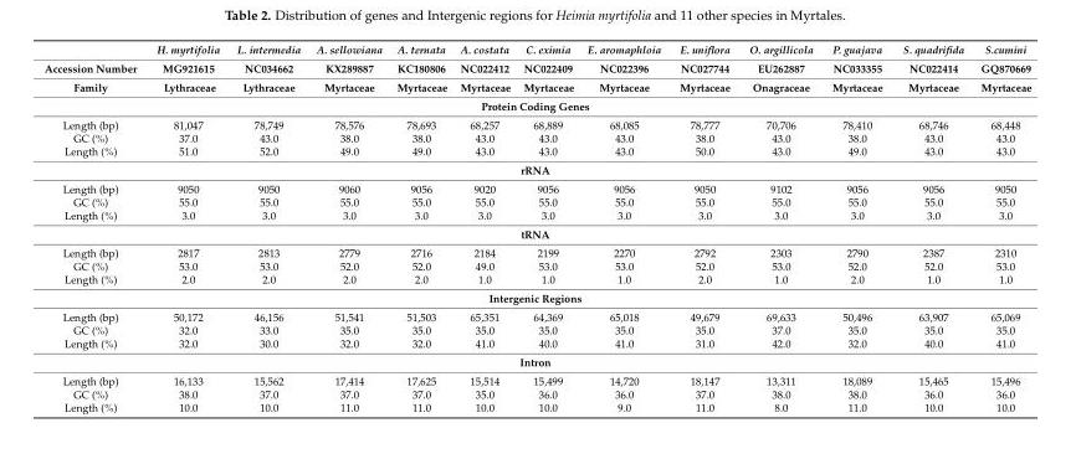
<table><thead><tr><td rowspan="3">Accession Number Family</td><td rowspan="3">H. myrtifolia MG921615 Lythraceae</td><td rowspan="3">L. intermedia NC034662 Lythraceae</td><td rowspan="3">A. sellowiana KX289887 Myrtaceae</td><td rowspan="3">A. ternata KC180806 Myrtaceae</td><td rowspan="3">A. costata NC022412 Myrtaceae</td><td rowspan="3">C. eximia NC022409 Myrtaceae</td><td rowspan="3">E. aromaphloia NC022396 Myrtaceae</td><td rowspan="3">E. uniflora NC027744 Myrtaceae</td><td rowspan="3">O. argillicola EU262887 Onagraceae</td><td rowspan="3">P. guajava NC033355 Myrtaceae</td><td rowspan="3">S. quadrifida NC022414 Myrtaceae</td><td rowspan="3">S.cumini GQ870669 Myrtaceae</td></tr><tr></tr><tr></tr></thead><tbody><tr><td colspan="13">Protein Coding Genes</td></tr><tr><td>Length (bp)</td><td>81,047</td><td>78,749</td><td>78,576</td><td>78,693</td><td>68,257</td><td>68,889</td><td>68,085</td><td>78,777</td><td>70,706</td><td>78,410</td><td>68,746</td><td>68,448</td></tr><tr><td>GC (%)</td><td>37.0</td><td>43.0</td><td>38.0</td><td>38.0</td><td>43.0</td><td>43.0</td><td>43.0</td><td>38.0</td><td>43.0</td><td>38.0</td><td>43.0</td><td>43.0</td></tr><tr><td>Length (%)</td><td>51.0</td><td>52.0</td><td>49.0</td><td>49.0</td><td>43.0</td><td>43.0</td><td>43.0</td><td>50.0</td><td>43.0</td><td>49.0</td><td>43.0</td><td>43.0</td></tr><tr><td colspan="13">rRNA</td></tr><tr><td>Length (bp)</td><td>9050</td><td>9050</td><td>9060</td><td>9056</td><td>9020</td><td>9056</td><td>9056</td><td>9050</td><td>9102</td><td>9056</td><td>9056</td><td>9050</td></tr><tr><td>GC (%)</td><td>55.0</td><td>55.0</td><td>55.0</td><td>55.0</td><td>55.0</td><td>55.0</td><td>55.0</td><td>55.0</td><td>55.0</td><td>55.0</td><td>55.0</td><td>55.0</td></tr><tr><td>Length (%)</td><td>3.0</td><td>3.0</td><td>3.0</td><td>3.0</td><td>3.0</td><td>3.0</td><td>3.0</td><td>3.0</td><td>3.0</td><td>3.0</td><td>3.0</td><td>3.0</td></tr><tr><td colspan="13">tRNA</td></tr><tr><td>Length (bp)</td><td>2817</td><td>2813</td><td>2779</td><td>2716</td><td>2184</td><td>2199</td><td>2270</td><td>2792</td><td>2303</td><td>2790</td><td>2387</td><td>2310</td></tr><tr><td>GC (%)</td><td>53.0</td><td>53.0</td><td>52.0</td><td>52.0</td><td>49.0</td><td>53.0</td><td>53.0</td><td>52.0</td><td>53.0</td><td>52.0</td><td>52.0</td><td>53.0</td></tr><tr><td>Length (%)</td><td>2.0</td><td>2.0</td><td>2.0</td><td>2.0</td><td>1.0</td><td>1.0</td><td>1.0</td><td>2.0</td><td>1.0</td><td>2.0</td><td>1.0</td><td>1.0</td></tr><tr><td colspan="13">Intergenic Regions</td></tr><tr><td>Length (bp)</td><td>50,172</td><td>46,156</td><td>51,541</td><td>51,503</td><td>65,351</td><td>64,369</td><td>65,018</td><td>49,679</td><td>69,633</td><td>50,496</td><td>63,907</td><td>65,069</td></tr><tr><td>GC (%)</td><td>32.0</td><td>33.0</td><td>35.0</td><td>35.0</td><td>35.0</td><td>35.0</td><td>35.0</td><td>35.0</td><td>37.0</td><td>35.0</td><td>35.0</td><td>35.0</td></tr><tr><td>Length (%)</td><td>32.0</td><td>30.0</td><td>32.0</td><td>32.0</td><td>41.0</td><td>40.0</td><td>41.0</td><td>31.0</td><td>42.0</td><td>32.0</td><td>40.0</td><td>41.0</td></tr><tr><td colspan="13">Intron</td></tr><tr><td>Length (bp)</td><td>16,133</td><td>15,562</td><td>17,414</td><td>17,625</td><td>15,514</td><td>15,499</td><td>14,720</td><td>18,147</td><td>13,311</td><td>18,089</td><td>15,465</td><td>15,496</td></tr><tr><td>GC (%)</td><td>38.0</td><td>37.0</td><td>37.0</td><td>37.0</td><td>35.0</td><td>36.0</td><td>36.0</td><td>37.0</td><td>38.0</td><td>38.0</td><td>36.0</td><td>36.0</td></tr><tr><td>Length (%)</td><td>10.0</td><td>10.0</td><td>11.0</td><td>11.0</td><td>10.0</td><td>10.0</td><td>9.0</td><td>11.0</td><td>8.0</td><td>11.0</td><td>10.0</td><td>10.0</td></tr></tbody></table>